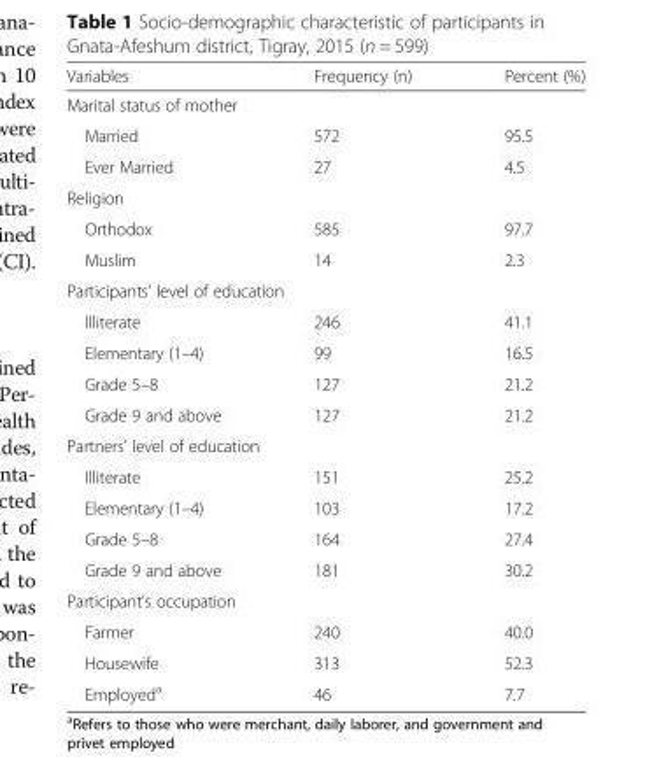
<table><thead><tr><td>Variables</td><td>Frequency (n)</td><td>Percent (%)</td></tr></thead><tbody><tr><td colspan="3">Marital status of mother</td></tr><tr><td>Married</td><td>572</td><td>95.5</td></tr><tr><td>Ever Married</td><td>27</td><td>4.5</td></tr><tr><td colspan="3">Religion</td></tr><tr><td>Orthodox</td><td>585</td><td>97.7</td></tr><tr><td>Muslim</td><td>14</td><td>2.3</td></tr><tr><td colspan="3">Participants’ level of education</td></tr><tr><td>Illiterate</td><td>246</td><td>41.1</td></tr><tr><td>Elementary (1–4)</td><td>99</td><td>16.5</td></tr><tr><td>Grade 5–8</td><td>127</td><td>21.2</td></tr><tr><td>Grade 9 and above</td><td>127</td><td>21.2</td></tr><tr><td colspan="3">Partners’ level of education</td></tr><tr><td>Illiterate</td><td>151</td><td>25.2</td></tr><tr><td>Elementary (1–4)</td><td>103</td><td>17.2</td></tr><tr><td>Grade 5–8</td><td>164</td><td>27.4</td></tr><tr><td>Grade 9 and above</td><td>181</td><td>30.2</td></tr><tr><td colspan="3">Participant’s occupation</td></tr><tr><td>Farmer</td><td>240</td><td>40.0</td></tr><tr><td>Housewife</td><td>313</td><td>52.3</td></tr><tr><td>Employed<sup>a</sup></td><td>46</td><td>7.7</td></tr></tbody></table>